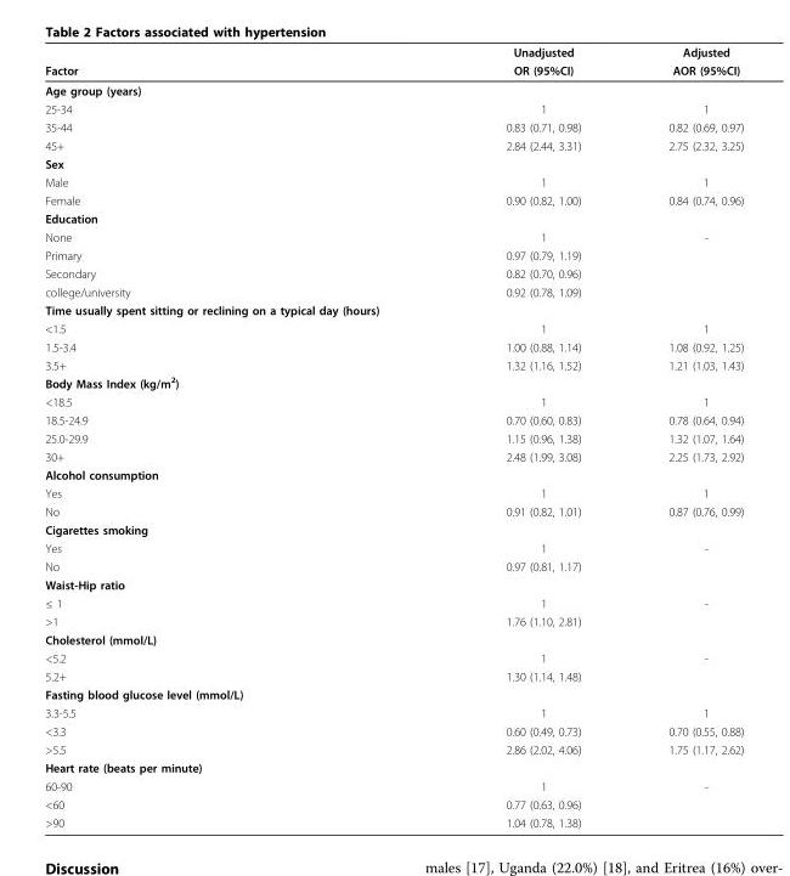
<table><thead><tr><td rowspan="2">Factor</td><td rowspan="2">Unadjusted OR (95%CI)</td><td rowspan="2">Adjusted AOR (95%CI)</td></tr><tr></tr></thead><tbody><tr><td colspan="3">Age group (years)</td></tr><tr><td>25-34</td><td>1</td><td>1</td></tr><tr><td>35-44</td><td>0.83 (0.71, 0.98)</td><td>0.82 (0.69, 0.97)</td></tr><tr><td>45+</td><td>2.84 (2.44, 3.31)</td><td>2.75 (2.32, 3.25)</td></tr><tr><td colspan="3">Sex</td></tr><tr><td>Male</td><td>1</td><td>1</td></tr><tr><td>Female</td><td>0.90 (0.82, 1.00)</td><td>0.84 (0.74, 0.96)</td></tr><tr><td colspan="3">Education</td></tr><tr><td>None</td><td>1</td><td>-</td></tr><tr><td>Primary</td><td>0.97 (0.79, 1.19)</td><td></td></tr><tr><td>Secondary</td><td>0.82 (0.70, 0.96)</td><td></td></tr><tr><td>college/university</td><td>0.92 (0.78, 1.09)</td><td></td></tr><tr><td colspan="3">Time usually spent sitting or reclining on a typical day (hours)</td></tr><tr><td>&lt;1.5</td><td>1</td><td>1</td></tr><tr><td>1.5-3.4</td><td>1.00 (0.88, 1.14)</td><td>1.08 (0.92, 1.25)</td></tr><tr><td>3.5+</td><td>1.32 (1.16, 1.52)</td><td>1.21 (1.03, 1.43)</td></tr><tr><td colspan="3">Body Mass Index (kg/m<sup>2</sup>)</td></tr><tr><td>&lt;18.5</td><td>1</td><td>1</td></tr><tr><td>18.5-24.9</td><td>0.70 (0.60, 0.83)</td><td>0.78 (0.64, 0.94)</td></tr><tr><td>25.0-29.9</td><td>1.15 (0.96, 1.38)</td><td>1.32 (1.07, 1.64)</td></tr><tr><td>30+</td><td>2.48 (1.99, 3.08)</td><td>2.25 (1.73, 2.92)</td></tr><tr><td colspan="3">Alcohol consumption</td></tr><tr><td>Yes</td><td>1</td><td>1</td></tr><tr><td>No</td><td>0.91 (0.82, 1.01)</td><td>0.87 (0.76, 0.99)</td></tr><tr><td colspan="3">Cigarettes smoking</td></tr><tr><td>Yes</td><td>1</td><td>-</td></tr><tr><td>No</td><td>0.97 (0.81, 1.17)</td><td></td></tr><tr><td colspan="3">Waist-Hip ratio</td></tr><tr><td>≤ 1</td><td>1</td><td>-</td></tr><tr><td>&gt;1</td><td>1.76 (1.10, 2.81)</td><td></td></tr><tr><td colspan="3">Cholesterol (mmol/L)</td></tr><tr><td>&lt;5.2</td><td>1</td><td>-</td></tr><tr><td>5.2+</td><td>1.30 (1.14, 1.48)</td><td></td></tr><tr><td colspan="3">Fasting blood glucose level (mmol/L)</td></tr><tr><td>3.3-5.5</td><td>1</td><td>1</td></tr><tr><td>&lt;3.3</td><td>0.60 (0.49, 0.73)</td><td>0.70 (0.55, 0.88)</td></tr><tr><td>&gt;5.5</td><td>2.86 (2.02, 4.06)</td><td>1.75 (1.17, 2.62)</td></tr><tr><td colspan="3">Heart rate (beats per minute)</td></tr><tr><td>60-90</td><td>1</td><td>-</td></tr><tr><td>&lt;60</td><td>0.77 (0.63, 0.96)</td><td></td></tr><tr><td>&gt;90</td><td>1.04 (0.78, 1.38)</td><td></td></tr></tbody></table>